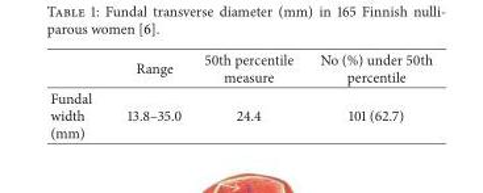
<table><thead><tr><td></td><td>Range</td><td>50th percentile measure</td><td>No (%) under 50th percentile</td></tr></thead><tbody><tr><td>Fundal width (mm)</td><td>13.8–35.0</td><td>24.4</td><td>101 (62.7)</td></tr></tbody></table>